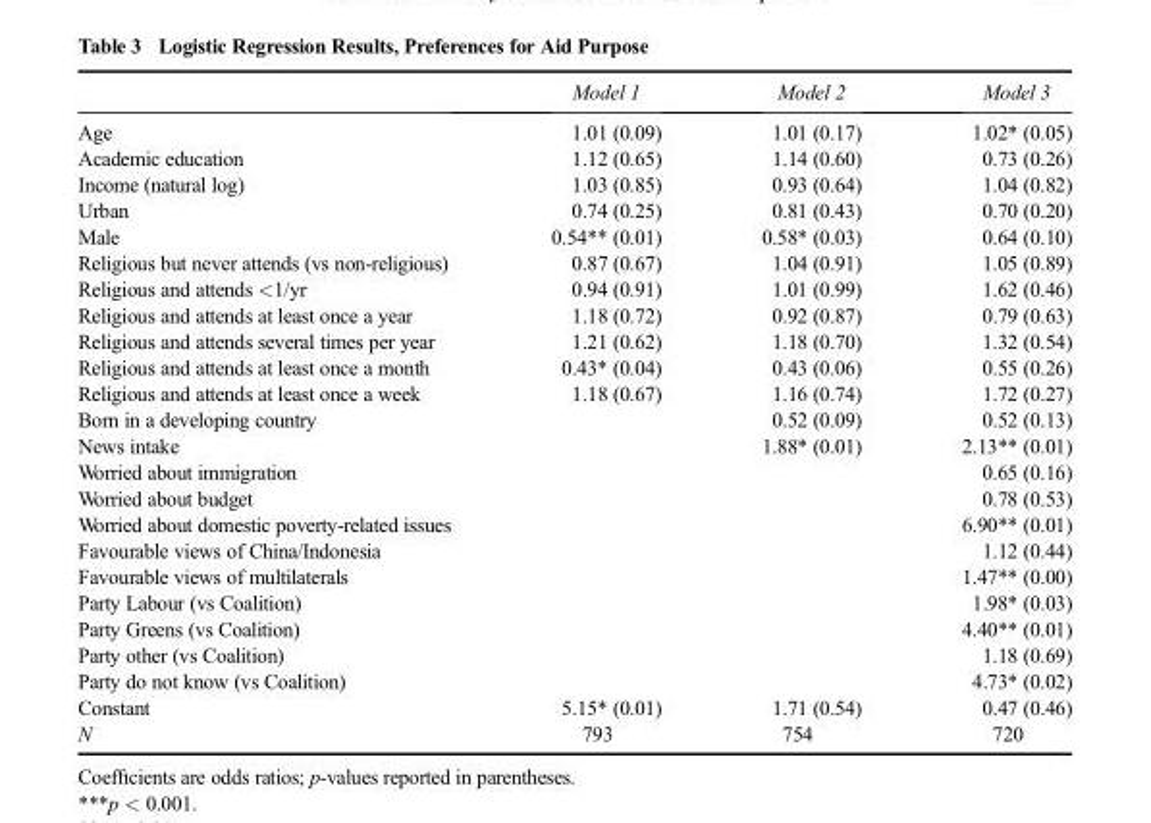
<table><thead><tr><td></td><td>Model 1</td><td>Model 2</td><td>Model 3</td></tr></thead><tbody><tr><td>Age</td><td>1.01 (0.09)</td><td>1.01 (0.17)</td><td>1.02* (0.05)</td></tr><tr><td>Academic education</td><td>1.12 (0.65)</td><td>1.14 (0.60)</td><td>0.73 (0.26)</td></tr><tr><td>Income (natural log)</td><td>1.03 (0.85)</td><td>0.93 (0.64)</td><td>1.04 (0.82)</td></tr><tr><td>Urban</td><td>0.74 (0.25)</td><td>0.81 (0.43)</td><td>0.70 (0.20)</td></tr><tr><td>Male</td><td>0.54** (0.01)</td><td>0.58* (0.03)</td><td>0.64 (0.10)</td></tr><tr><td>Religious but never attends (vs non-religious)</td><td>0.87 (0.67)</td><td>1.04 (0.91)</td><td>1.05 (0.89)</td></tr><tr><td>Religious and attends &lt;1/yr</td><td>0.94 (0.91)</td><td>1.01 (0.99)</td><td>1.62 (0.46)</td></tr><tr><td>Religious and attends at least once a year</td><td>1.18 (0.72)</td><td>0.92 (0.87)</td><td>0.79 (0.63)</td></tr><tr><td>Religious and attends several times per year</td><td>1.21 (0.62)</td><td>1.18 (0.70)</td><td>1.32 (0.54)</td></tr><tr><td>Religious and attends at least once a month</td><td>0.43* (0.04)</td><td>0.43 (0.06)</td><td>0.55 (0.26)</td></tr><tr><td>Religious and attends at least once a week</td><td>1.18 (0.67)</td><td>1.16 (0.74)</td><td>1.72 (0.27)</td></tr><tr><td>Born in a developing country</td><td></td><td>0.52 (0.09)</td><td>0.52 (0.13)</td></tr><tr><td>News intake</td><td></td><td>1.88* (0.01)</td><td>2.13** (0.01)</td></tr><tr><td>Worried about immigration</td><td></td><td></td><td>0.65 (0.16)</td></tr><tr><td>Worried about budget</td><td></td><td></td><td>0.78 (0.53)</td></tr><tr><td>Worried about domestic poverty-related issues</td><td></td><td></td><td>6.90** (0.01)</td></tr><tr><td>Favourable views of China/Indonesia</td><td></td><td></td><td>1.12 (0.44)</td></tr><tr><td>Favourable views of multilaterals</td><td></td><td></td><td>1.47** (0.00)</td></tr><tr><td>Party Labour (vs Coalition)</td><td></td><td></td><td>1.98* (0.03)</td></tr><tr><td>Party Greens (vs Coalition)</td><td></td><td></td><td>4.40** (0.01)</td></tr><tr><td>Party other (vs Coalition)</td><td></td><td></td><td>1.18 (0.69)</td></tr><tr><td>Party do not know (vs Coalition)</td><td></td><td></td><td>4.73* (0.02)</td></tr><tr><td>Constant</td><td>5.15* (0.01)</td><td>1.71 (0.54)</td><td>0.47 (0.46)</td></tr><tr><td>N</td><td>793</td><td>754</td><td>720</td></tr></tbody></table>